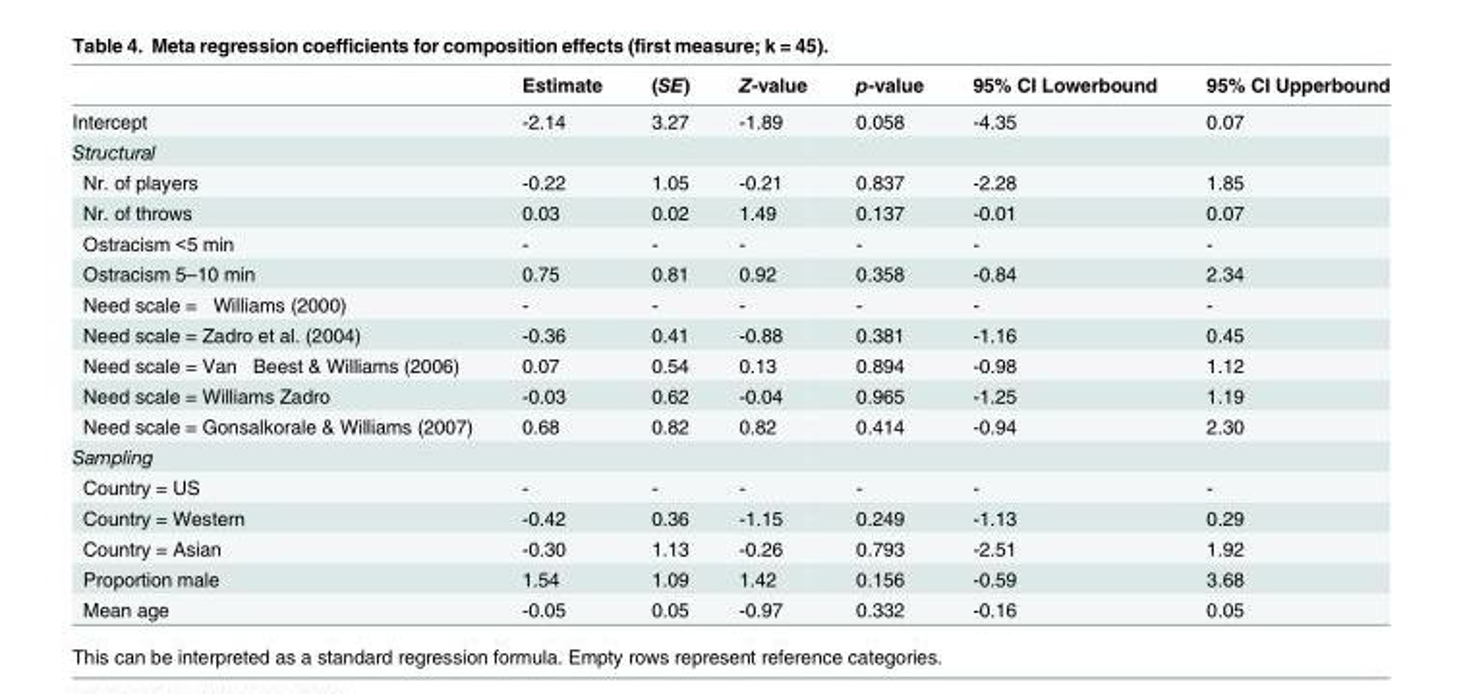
<table><thead><tr><td></td><td>Estimate</td><td>(SE)</td><td>Z-value</td><td>p-value</td><td>95% CI Lowerbound</td><td>95% CI Upperbound</td></tr></thead><tbody><tr><td>Intercept</td><td>-2.14</td><td>3.27</td><td>-1.89</td><td>0.058</td><td>-4.35</td><td>0.07</td></tr><tr><td colspan="7">Structural</td></tr><tr><td>Nr. of players</td><td>-0.22</td><td>1.05</td><td>-0.21</td><td>0.837</td><td>-2.28</td><td>1.85</td></tr><tr><td>Nr. of throws</td><td>0.03</td><td>0.02</td><td>1.49</td><td>0.137</td><td>-0.01</td><td>0.07</td></tr><tr><td>Ostracism &lt;5 min</td><td>-</td><td>-</td><td>-</td><td>-</td><td>-</td><td>-</td></tr><tr><td>Ostracism 5–10 min</td><td>0.75</td><td>0.81</td><td>0.92</td><td>0.358</td><td>-0.84</td><td>2.34</td></tr><tr><td>Need scale = Williams (2000)</td><td>-</td><td>-</td><td>-</td><td>-</td><td>-</td><td>-</td></tr><tr><td>Need scale = Zadro et al. (2004)</td><td>-0.36</td><td>0.41</td><td>-0.88</td><td>0.381</td><td>-1.16</td><td>0.45</td></tr><tr><td>Need scale = Van Beest &amp; Williams (2006)</td><td>0.07</td><td>0.54</td><td>0.13</td><td>0.894</td><td>-0.98</td><td>1.12</td></tr><tr><td>Need scale = Williams Zadro</td><td>-0.03</td><td>0.62</td><td>-0.04</td><td>0.965</td><td>-1.25</td><td>1.19</td></tr><tr><td>Need scale = Gonsalkorale &amp; Williams (2007)</td><td>0.68</td><td>0.82</td><td>0.82</td><td>0.414</td><td>-0.94</td><td>2.30</td></tr><tr><td colspan="7">Sampling</td></tr><tr><td>Country = US</td><td>-</td><td>-</td><td>-</td><td>-</td><td>-</td><td>-</td></tr><tr><td>Country = Western</td><td>-0.42</td><td>0.36</td><td>-1.15</td><td>0.249</td><td>-1.13</td><td>0.29</td></tr><tr><td>Country = Asian</td><td>-0.30</td><td>1.13</td><td>-0.26</td><td>0.793</td><td>-2.51</td><td>1.92</td></tr><tr><td>Proportion male</td><td>1.54</td><td>1.09</td><td>1.42</td><td>0.156</td><td>-0.59</td><td>3.68</td></tr><tr><td>Mean age</td><td>-0.05</td><td>0.05</td><td>-0.97</td><td>0.332</td><td>-0.16</td><td>0.05</td></tr></tbody></table>